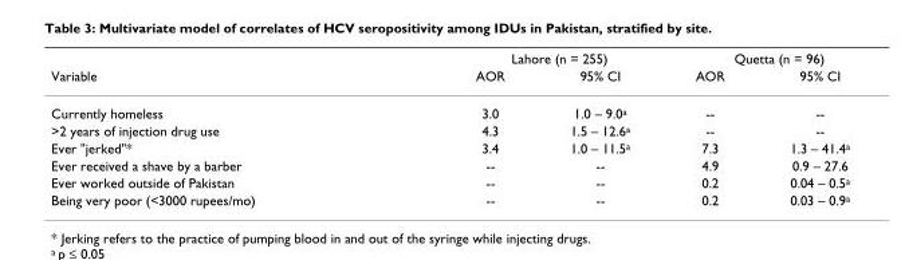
<table><thead><tr><td rowspan="2">Variable</td><td colspan="2">Lahore (n = 255)</td><td colspan="2">Quetta (n = 96)</td></tr><tr><td>AOR</td><td>95% CI</td><td>AOR</td><td>95% CI</td></tr></thead><tbody><tr><td>Currently homeless</td><td>3.0</td><td>1.0 – 9.0<sup>a</sup></td><td>--</td><td>--</td></tr><tr><td>&gt;2 years of injection drug use</td><td>4.3</td><td>1.5 – 12.6<sup>a</sup></td><td>--</td><td>--</td></tr><tr><td>Ever &quot;jerked&quot;*</td><td>3.4</td><td>1.0 – 11.5<sup>a</sup></td><td>7.3</td><td>1.3 – 41.4<sup>a</sup></td></tr><tr><td>Ever received a shave by a barber</td><td>--</td><td>--</td><td>4.9</td><td>0.9 – 27.6</td></tr><tr><td>Ever worked outside of Pakistan</td><td>--</td><td>--</td><td>0.2</td><td>0.04 – 0.5<sup>a</sup></td></tr><tr><td>Being very poor (&lt;3000 rupees/mo)</td><td>--</td><td>--</td><td>0.2</td><td>0.03 – 0.9<sup>a</sup></td></tr></tbody></table>